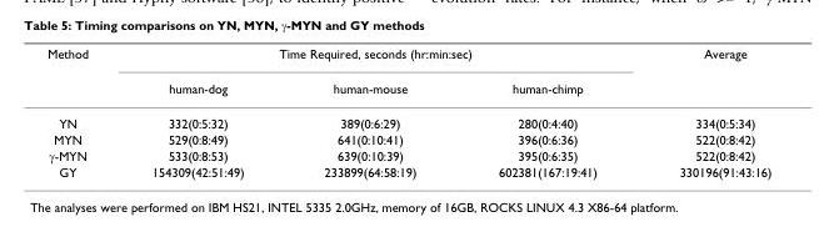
<table><thead><tr><td rowspan="2">Method</td><td colspan="3">Time Required, seconds (hr:min:sec)</td><td rowspan="2">Average</td></tr><tr><td>human-dog</td><td>human-mouse</td><td>human-chimp</td></tr></thead><tbody><tr><td>YN</td><td>332(0:5:32)</td><td>389(0:6:29)</td><td>280(0:4:40)</td><td>334(0:5:34)</td></tr><tr><td>MYN</td><td>529(0:8:49)</td><td>641(0:10:41)</td><td>396(0:6:36)</td><td>522(0:8:42)</td></tr><tr><td>γ-MYN</td><td>533(0:8:53)</td><td>639(0:10:39)</td><td>395(0:6:35)</td><td>522(0:8:42)</td></tr><tr><td>GY</td><td>154309(42:51:49)</td><td>233899(64:58:19)</td><td>602381(167:19:41)</td><td>330196(91:43:16)</td></tr></tbody></table>